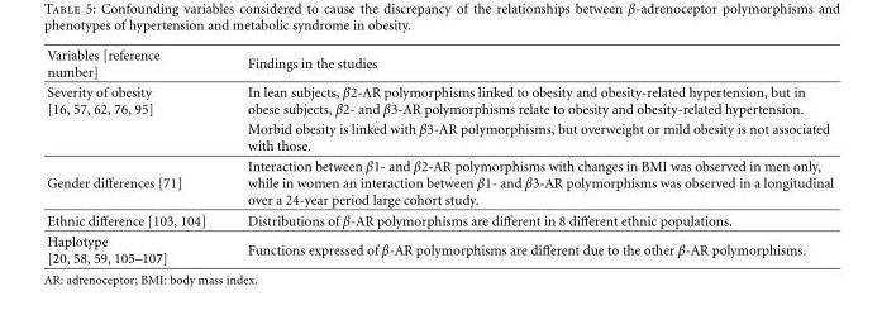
<table><thead><tr><td>Variables [reference number]</td><td>Findings in the studies</td></tr></thead><tbody><tr><td rowspan="2">Severity of obesity [16, 57, 62, 76, 95]</td><td>In lean subjects, β2-AR polymorphisms linked to obesity and obesity-related hypertension, but in obese subjects, β2- and β3-AR polymorphisms relate to obesity and obesity-related hypertension.</td></tr><tr><td>Morbid obesity is linked with β3-AR polymorphisms, but overweight or mild obesity is not associated with those.</td></tr><tr><td>Gender differences [71]</td><td>Interaction between β1- and β2-AR polymorphisms with changes in BMI was observed in men only, while in women an interaction between β1- and β3-AR polymorphisms was observed in a longitudinal over a 24-year period large cohort study.</td></tr><tr><td>Ethnic difference [103, 104]</td><td>Distributions of β-AR polymorphisms are different in 8 different ethnic populations.</td></tr><tr><td>Haplotype [20, 58, 59, 105–107]</td><td>Functions expressed of β-AR polymorphisms are different due to the other β-AR polymorphisms.</td></tr></tbody></table>